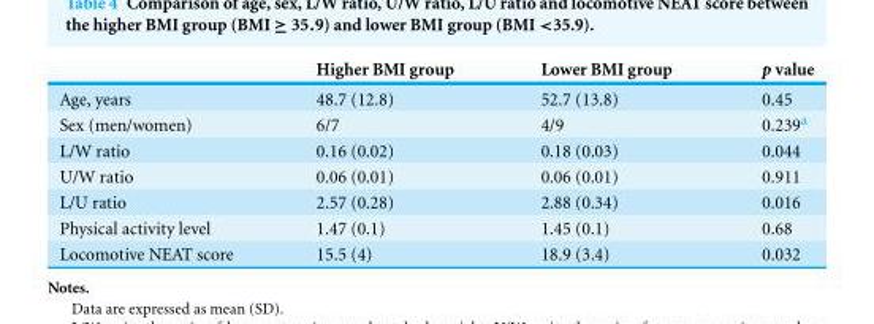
<table><thead><tr><td></td><td>Higher BMI group</td><td>Lower BMI group</td><td>p value</td></tr></thead><tbody><tr><td>Age, years</td><td>48.7 (12.8)</td><td>52.7 (13.8)</td><td>0.45</td></tr><tr><td>Sex (men/women)</td><td>6/7</td><td>4/9</td><td>0.239<sup>a</sup></td></tr><tr><td>L/W ratio</td><td>0.16 (0.02)</td><td>0.18 (0.03)</td><td>0.044</td></tr><tr><td>U/W ratio</td><td>0.06 (0.01)</td><td>0.06 (0.01)</td><td>0.911</td></tr><tr><td>L/U ratio</td><td>2.57 (0.28)</td><td>2.88 (0.34)</td><td>0.016</td></tr><tr><td>Physical activity level</td><td>1.47 (0.1)</td><td>1.45 (0.1)</td><td>0.68</td></tr><tr><td>Locomotive NEAT score</td><td>15.5 (4)</td><td>18.9 (3.4)</td><td>0.032</td></tr></tbody></table>